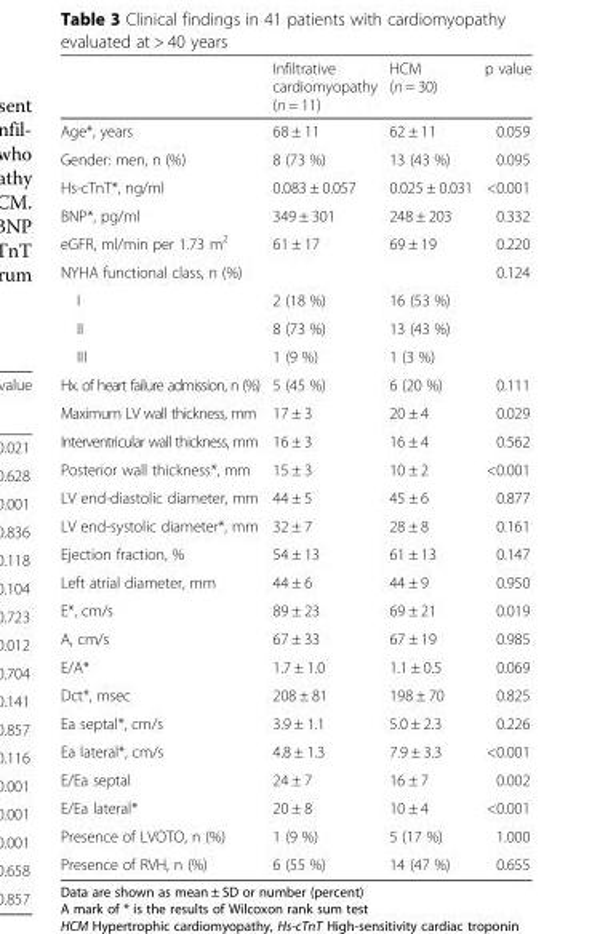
<table><thead><tr><td></td><td>Infiltrative cardiomyopathy (n = 11)</td><td>HCM (n = 30)</td><td>p value</td></tr></thead><tbody><tr><td>Age*, years</td><td>68 ± 11</td><td>62 ± 11</td><td>0.059</td></tr><tr><td>Gender: men, n (%)</td><td>8 (73 %)</td><td>13 (43 %)</td><td>0.095</td></tr><tr><td>Hs-cTnT*, ng/ml</td><td>0.083 ± 0.057</td><td>0.025 ± 0.031</td><td>&lt;0.001</td></tr><tr><td>BNP*, pg/ml</td><td>349 ± 301</td><td>248 ± 203</td><td>0.332</td></tr><tr><td>eGFR, ml/min per 1.73 m<sup>2</sup></td><td>61 ± 17</td><td>69 ± 19</td><td>0.220</td></tr><tr><td>NYHA functional class, n (%)</td><td></td><td></td><td>0.124</td></tr><tr><td>I</td><td>2 (18 %)</td><td>16 (53 %)</td><td></td></tr><tr><td>II</td><td>8 (73 %)</td><td>13 (43 %)</td><td></td></tr><tr><td>III</td><td>1 (9 %)</td><td>1 (3 %)</td><td></td></tr><tr><td>Hx. of heart failure admission, n (%)</td><td>5 (45 %)</td><td>6 (20 %)</td><td>0.111</td></tr><tr><td>Maximum LV wall thickness, mm</td><td>17 ± 3</td><td>20 ± 4</td><td>0.029</td></tr><tr><td>Interventricular wall thickness, mm</td><td>16 ± 3</td><td>16 ± 4</td><td>0.562</td></tr><tr><td>Posterior wall thickness*, mm</td><td>15 ± 3</td><td>10 ± 2</td><td>&lt;0.001</td></tr><tr><td>LV end-diastolic diameter, mm</td><td>44 ± 5</td><td>45 ± 6</td><td>0.877</td></tr><tr><td>LV end-systolic diameter*, mm</td><td>32 ± 7</td><td>28 ± 8</td><td>0.161</td></tr><tr><td>Ejection fraction, %</td><td>54 ± 13</td><td>61 ± 13</td><td>0.147</td></tr><tr><td>Left atrial diameter, mm</td><td>44 ± 6</td><td>44 ± 9</td><td>0.950</td></tr><tr><td>E*, cm/s</td><td>89 ± 23</td><td>69 ± 21</td><td>0.019</td></tr><tr><td>A, cm/s</td><td>67 ± 33</td><td>67 ± 19</td><td>0.985</td></tr><tr><td>E/A*</td><td>1.7 ± 1.0</td><td>1.1 ± 0.5</td><td>0.069</td></tr><tr><td>Dct*, msec</td><td>208 ± 81</td><td>198 ± 70</td><td>0.825</td></tr><tr><td>Ea septal*, cm/s</td><td>3.9 ± 1.1</td><td>5.0 ± 2.3</td><td>0.226</td></tr><tr><td>Ea lateral*, cm/s</td><td>4.8 ± 1.3</td><td>7.9 ± 3.3</td><td>&lt;0.001</td></tr><tr><td>E/Ea septal</td><td>24 ± 7</td><td>16 ± 7</td><td>0.002</td></tr><tr><td>E/Ea lateral*</td><td>20 ± 8</td><td>10 ± 4</td><td>&lt;0.001</td></tr><tr><td>Presence of LVOTO, n (%)</td><td>1 (9 %)</td><td>5 (17 %)</td><td>1.000</td></tr><tr><td>Presence of RVH, n (%)</td><td>6 (55 %)</td><td>14 (47 %)</td><td>0.655</td></tr></tbody></table>